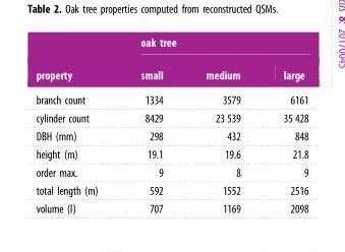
<table><thead><tr><td rowspan="2">property</td><td colspan="3">oak tree</td></tr><tr><td>small</td><td>medium</td><td>large</td></tr></thead><tbody><tr><td>branch count</td><td>1334</td><td>3579</td><td>6161</td></tr><tr><td>cylinder count</td><td>8429</td><td>23 539</td><td>35 428</td></tr><tr><td>DBH (mm)</td><td>298</td><td>432</td><td>848</td></tr><tr><td>height (m)</td><td>19.1</td><td>19.6</td><td>21.8</td></tr><tr><td>order max.</td><td>9</td><td>8</td><td>9</td></tr><tr><td>total length (m)</td><td>592</td><td>1552</td><td>2516</td></tr><tr><td>volume (l)</td><td>707</td><td>1169</td><td>2098</td></tr></tbody></table>